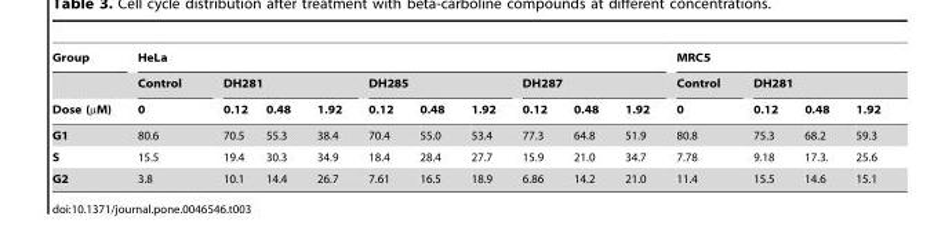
<table><thead><tr><td rowspan="3">Group Dose (µM)</td><td colspan="10">HeLa</td><td colspan="4">MRC5</td></tr><tr><td rowspan="2">Control 0</td><td colspan="3">DH281</td><td colspan="3">DH285</td><td colspan="3">DH287</td><td rowspan="2">Control 0</td><td colspan="3">DH281</td></tr><tr><td>0.12</td><td>0.48</td><td>1.92</td><td>0.12</td><td>0.48</td><td>1.92</td><td>0.12</td><td>0.48</td><td>1.92</td><td>0.12</td><td>0.48</td><td>1.92</td></tr></thead><tbody><tr><td>G1</td><td>80.6</td><td>70.5</td><td>55.3</td><td>38.4</td><td>70.4</td><td>55.0</td><td>53.4</td><td>77.3</td><td>64.8</td><td>51.9</td><td>80.8</td><td>75.3</td><td>68.2</td><td>59.3</td></tr><tr><td>S</td><td>15.5</td><td>19.4</td><td>30.3</td><td>34.9</td><td>18.4</td><td>28.4</td><td>27.7</td><td>15.9</td><td>21.0</td><td>34.7</td><td>7.78</td><td>9.18</td><td>17.3.</td><td>25.6</td></tr><tr><td>G2</td><td>3.8</td><td>10.1</td><td>14.4</td><td>26.7</td><td>7.61</td><td>16.5</td><td>18.9</td><td>6.86</td><td>14.2</td><td>21.0</td><td>11.4</td><td>15.5</td><td>14.6</td><td>15.1</td></tr></tbody></table>